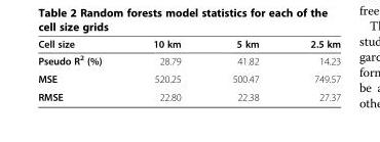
<table><thead><tr><td>Cell size</td><td>10 km</td><td>5 km</td><td>2.5 km</td></tr></thead><tbody><tr><td>Pseudo R<sup>2</sup> (%)</td><td>28.79</td><td>41.82</td><td>14.23</td></tr><tr><td>MSE</td><td>520.25</td><td>500.47</td><td>749.57</td></tr><tr><td>RMSE</td><td>22.80</td><td>22.38</td><td>27.37</td></tr></tbody></table>